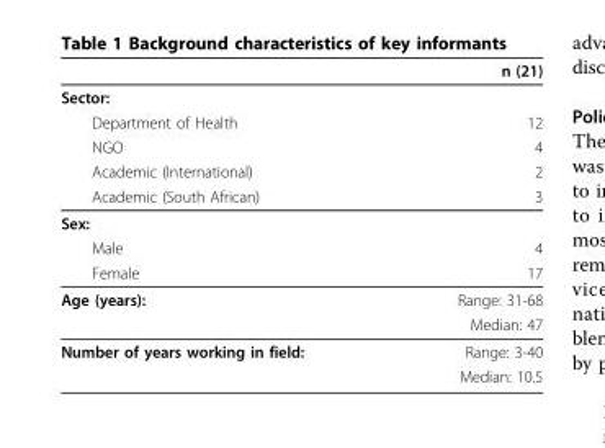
<table><thead><tr><td></td><td>n (21)</td></tr></thead><tbody><tr><td colspan="2">Sector:</td></tr><tr><td>Department of Health</td><td>12</td></tr><tr><td>NGO</td><td>4</td></tr><tr><td>Academic (International)</td><td>2</td></tr><tr><td>Academic (South African)</td><td>3</td></tr><tr><td colspan="2">Sex:</td></tr><tr><td>Male</td><td>4</td></tr><tr><td>Female</td><td>17</td></tr><tr><td rowspan="2">Age (years):</td><td>Range: 31-68</td></tr><tr><td>Median: 47</td></tr><tr><td rowspan="2">Number of years working in field:</td><td>Range: 3-40</td></tr><tr><td>Median: 10.5</td></tr></tbody></table>